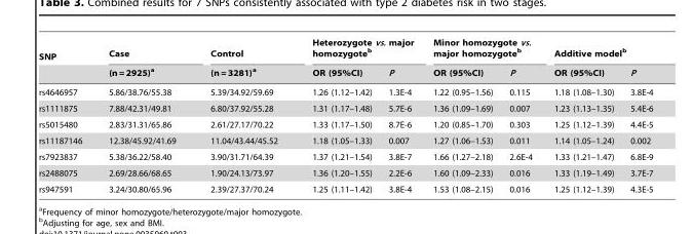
<table><thead><tr><td rowspan="2">SNP</td><td rowspan="2">Case (n = 2925)<sup>a</sup></td><td rowspan="2">Control (n = 3281)<sup>a</sup></td><td colspan="2">Heterozygote vs. major homozygote<sup>b</sup></td><td colspan="2">Minor homozygote vs. major homozygote<sup>b</sup></td><td colspan="2">Additive model<sup>b</sup></td></tr><tr><td>OR (95%CI)</td><td>P</td><td>OR (95%CI)</td><td>P</td><td>OR (95%CI)</td><td>P</td></tr></thead><tbody><tr><td>rs4646957</td><td>5.86/38.76/55.38</td><td>5.39/34.92/59.69</td><td>1.26 (1.12–1.42)</td><td>1.3E-4</td><td>1.22 (0.95–1.56)</td><td>0.115</td><td>1.18 (1.08–1.30)</td><td>3.8E-4</td></tr><tr><td>rs1111875</td><td>7.88/42.31/49.81</td><td>6.80/37.92/55.28</td><td>1.31 (1.17–1.48)</td><td>5.7E-6</td><td>1.36 (1.09–1.69)</td><td>0.007</td><td>1.23 (1.13–1.35)</td><td>5.4E-6</td></tr><tr><td>rs5015480</td><td>2.83/31.31/65.86</td><td>2.61/27.17/70.22</td><td>1.33 (1.17–1.50)</td><td>8.7E-6</td><td>1.20 (0.85–1.70)</td><td>0.303</td><td>1.25 (1.12–1.39)</td><td>4.4E-5</td></tr><tr><td>rs11187146</td><td>12.38/45.92/41.69</td><td>11.04/43.44/45.52</td><td>1.18 (1.05–1.33)</td><td>0.007</td><td>1.27 (1.06–1.53)</td><td>0.011</td><td>1.14 (1.05–1.24)</td><td>0.002</td></tr><tr><td>rs7923837</td><td>5.38/36.22/58.40</td><td>3.90/31.71/64.39</td><td>1.37 (1.21–1.54)</td><td>3.8E-7</td><td>1.66 (1.27–2.18)</td><td>2.6E-4</td><td>1.33 (1.21–1.47)</td><td>6.8E-9</td></tr><tr><td>rs2488075</td><td>2.69/28.66/68.65</td><td>1.90/24.13/73.97</td><td>1.36 (1.20–1.55)</td><td>2.2E-6</td><td>1.60 (1.09–2.33)</td><td>0.016</td><td>1.33 (1.19–1.49)</td><td>3.7E-7</td></tr><tr><td>rs947591</td><td>3.24/30.80/65.96</td><td>2.39/27.37/70.24</td><td>1.25 (1.11–1.42)</td><td>3.8E-4</td><td>1.53 (1.08–2.15)</td><td>0.016</td><td>1.25 (1.12–1.39)</td><td>4.3E-5</td></tr></tbody></table>